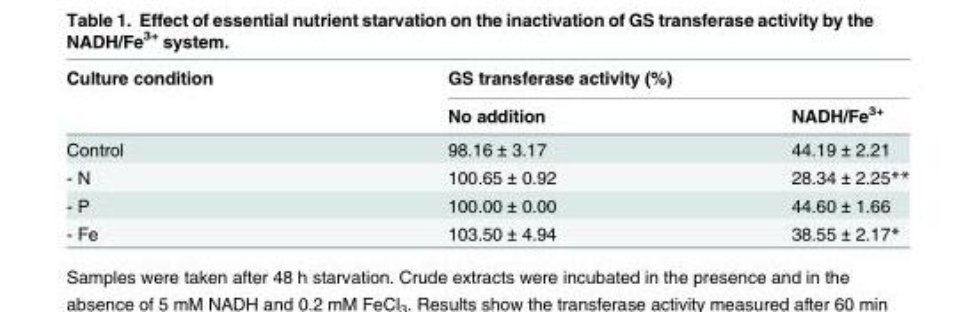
<table><thead><tr><td rowspan="2">Culture condition</td><td colspan="2">GS transferase activity (%)</td></tr><tr><td>No addition</td><td>NADH/Fe<sup>3+</sup></td></tr></thead><tbody><tr><td>Control</td><td>98.16 ± 3.17</td><td>44.19 ± 2.21</td></tr><tr><td>- N</td><td>100.65 ± 0.92</td><td>28.34 ± 2.25**</td></tr><tr><td>- P</td><td>100.00 ± 0.00</td><td>44.60 ± 1.66</td></tr><tr><td>- Fe</td><td>103.50 ± 4.94</td><td>38.55 ± 2.17*</td></tr></tbody></table>